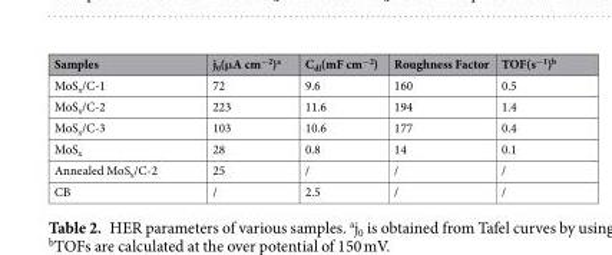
<table><thead><tr><td>Samples</td><td>j<sub>0</sub>(μA cm<sup>−2</sup>)<sup>a</sup></td><td>C<sub>dl</sub>(mF cm<sup>−2</sup>)</td><td>Roughness Factor</td><td>TOF(s<sup>−1</sup>)<sup>b</sup></td></tr></thead><tbody><tr><td>MoS<sub>x</sub>/C-1</td><td>72</td><td>9.6</td><td>160</td><td>0.5</td></tr><tr><td>MoS<sub>x</sub>/C-2</td><td>223</td><td>11.6</td><td>194</td><td>1.4</td></tr><tr><td>MoS<sub>x</sub>/C-3</td><td>103</td><td>10.6</td><td>177</td><td>0.4</td></tr><tr><td>MoS<sub>x</sub></td><td>28</td><td>0.8</td><td>14</td><td>0.1</td></tr><tr><td>Annealed MoS<sub>x</sub>/C-2</td><td>25</td><td>/</td><td>/</td><td>/</td></tr><tr><td>CB</td><td>/</td><td>2.5</td><td>/</td><td>/</td></tr></tbody></table>